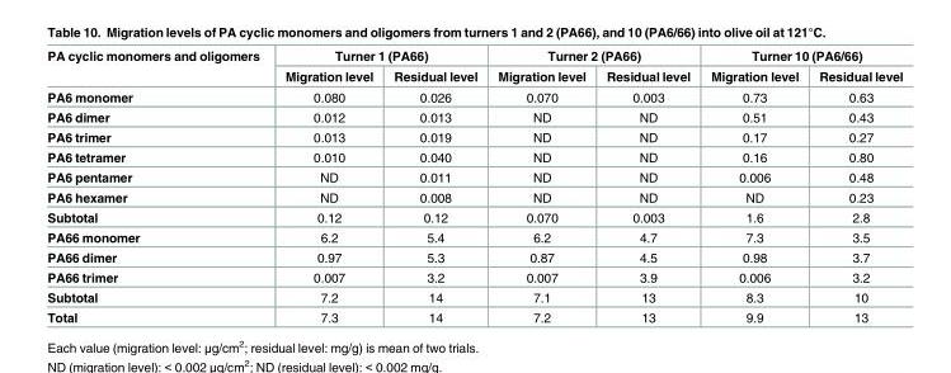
<table><thead><tr><td rowspan="2">PA cyclic monomers and oligomers</td><td colspan="2">Turner 1 (PA66)</td><td colspan="2">Turner 2 (PA66)</td><td colspan="2">Turner 10 (PA6/66)</td></tr><tr><td>Migration level</td><td>Residual level</td><td>Migration level</td><td>Residual level</td><td>Migration level</td><td>Residual level</td></tr></thead><tbody><tr><td>PA6 monomer</td><td>0.080</td><td>0.026</td><td>0.070</td><td>0.003</td><td>0.73</td><td>0.63</td></tr><tr><td>PA6 dimer</td><td>0.012</td><td>0.013</td><td>ND</td><td>ND</td><td>0.51</td><td>0.43</td></tr><tr><td>PA6 trimer</td><td>0.013</td><td>0.019</td><td>ND</td><td>ND</td><td>0.17</td><td>0.27</td></tr><tr><td>PA6 tetramer</td><td>0.010</td><td>0.040</td><td>ND</td><td>ND</td><td>0.16</td><td>0.80</td></tr><tr><td>PA6 pentamer</td><td>ND</td><td>0.011</td><td>ND</td><td>ND</td><td>0.006</td><td>0.48</td></tr><tr><td>PA6 hexamer</td><td>ND</td><td>0.008</td><td>ND</td><td>ND</td><td>ND</td><td>0.23</td></tr><tr><td>Subtotal</td><td>0.12</td><td>0.12</td><td>0.070</td><td>0.003</td><td>1.6</td><td>2.8</td></tr><tr><td>PA66 monomer</td><td>6.2</td><td>5.4</td><td>6.2</td><td>4.7</td><td>7.3</td><td>3.5</td></tr><tr><td>PA66 dimer</td><td>0.97</td><td>5.3</td><td>0.87</td><td>4.5</td><td>0.98</td><td>3.7</td></tr><tr><td>PA66 trimer</td><td>0.007</td><td>3.2</td><td>0.007</td><td>3.9</td><td>0.006</td><td>3.2</td></tr><tr><td>Subtotal</td><td>7.2</td><td>14</td><td>7.1</td><td>13</td><td>8.3</td><td>10</td></tr><tr><td>Total</td><td>7.3</td><td>14</td><td>7.2</td><td>13</td><td>9.9</td><td>13</td></tr></tbody></table>